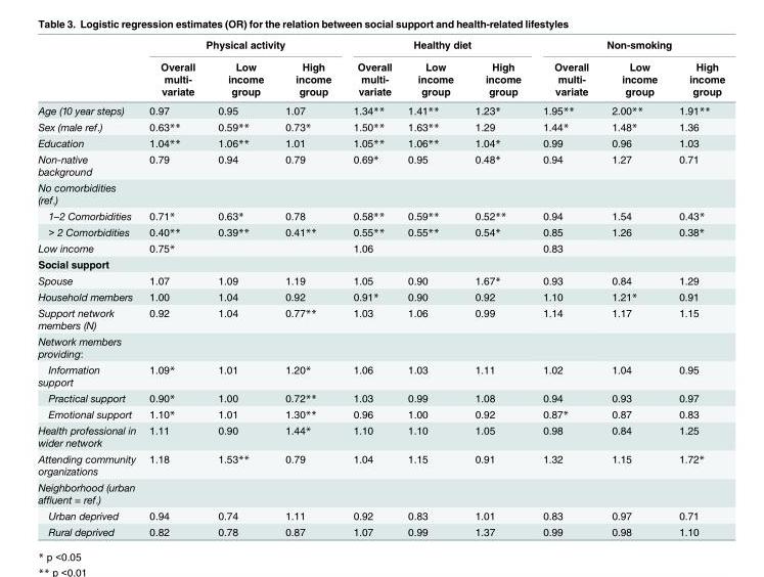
<table><thead><tr><td rowspan="2"></td><td colspan="3">Physical activity</td><td colspan="3">Healthy diet</td><td colspan="3">Non-smoking</td></tr><tr><td>Overall multi- variate</td><td>Low income group</td><td>High income group</td><td>Overall multi- variate</td><td>Low income group</td><td>High income group</td><td>Overall multi- variate</td><td>Low income group</td><td>High income group</td></tr></thead><tbody><tr><td>Age (10 year steps)</td><td>0.97</td><td>0.95</td><td>1.07</td><td>1.34**</td><td>1.41**</td><td>1.23*</td><td>1.95**</td><td>2.00**</td><td>1.91**</td></tr><tr><td>Sex (male ref.)</td><td>0.63**</td><td>0.59**</td><td>0.73*</td><td>1.50**</td><td>1.63**</td><td>1.29</td><td>1.44*</td><td>1.48*</td><td>1.36</td></tr><tr><td>Education</td><td>1.04**</td><td>1.06**</td><td>1.01</td><td>1.05**</td><td>1.06**</td><td>1.04*</td><td>0.99</td><td>0.96</td><td>1.03</td></tr><tr><td>Non-native background</td><td>0.79</td><td>0.94</td><td>0.79</td><td>0.69*</td><td>0.95</td><td>0.48*</td><td>0.94</td><td>1.27</td><td>0.71</td></tr><tr><td colspan="10">No comorbidities (ref.)</td></tr><tr><td>1–2 Comorbidities</td><td>0.71*</td><td>0.63*</td><td>0.78</td><td>0.58**</td><td>0.59**</td><td>0.52**</td><td>0.94</td><td>1.54</td><td>0.43*</td></tr><tr><td>&gt; 2 Comorbidities</td><td>0.40**</td><td>0.39**</td><td>0.41**</td><td>0.55**</td><td>0.55**</td><td>0.54*</td><td>0.85</td><td>1.26</td><td>0.38*</td></tr><tr><td>Low income</td><td>0.75*</td><td></td><td></td><td>1.06</td><td></td><td></td><td>0.83</td><td></td><td></td></tr><tr><td colspan="10">Social support</td></tr><tr><td>Spouse</td><td>1.07</td><td>1.09</td><td>1.19</td><td>1.05</td><td>0.90</td><td>1.67*</td><td>0.93</td><td>0.84</td><td>1.29</td></tr><tr><td>Household members</td><td>1.00</td><td>1.04</td><td>0.92</td><td>0.91*</td><td>0.90</td><td>0.92</td><td>1.10</td><td>1.21*</td><td>0.91</td></tr><tr><td>Support network members (N)</td><td>0.92</td><td>1.04</td><td>0.77**</td><td>1.03</td><td>1.06</td><td>0.99</td><td>1.14</td><td>1.17</td><td>1.15</td></tr><tr><td colspan="10">Network members providing:</td></tr><tr><td>Information support</td><td>1.09*</td><td>1.01</td><td>1.20*</td><td>1.06</td><td>1.03</td><td>1.11</td><td>1.02</td><td>1.04</td><td>0.95</td></tr><tr><td>Practical support</td><td>0.90*</td><td>1.00</td><td>0.72**</td><td>1.03</td><td>0.99</td><td>1.08</td><td>0.94</td><td>0.93</td><td>0.97</td></tr><tr><td>Emotional support</td><td>1.10*</td><td>1.01</td><td>1.30**</td><td>0.96</td><td>1.00</td><td>0.92</td><td>0.87*</td><td>0.87</td><td>0.83</td></tr><tr><td>Health professional in wider network</td><td>1.11</td><td>0.90</td><td>1.44*</td><td>1.10</td><td>1.10</td><td>1.05</td><td>0.98</td><td>0.84</td><td>1.25</td></tr><tr><td>Attending community organizations</td><td>1.18</td><td>1.53**</td><td>0.79</td><td>1.04</td><td>1.15</td><td>0.91</td><td>1.32</td><td>1.15</td><td>1.72*</td></tr><tr><td colspan="10">Neighborhood (urban affluent = ref.)</td></tr><tr><td>Urban deprived</td><td>0.94</td><td>0.74</td><td>1.11</td><td>0.92</td><td>0.83</td><td>1.01</td><td>0.83</td><td>0.97</td><td>0.71</td></tr><tr><td>Rural deprived</td><td>0.82</td><td>0.78</td><td>0.87</td><td>1.07</td><td>0.99</td><td>1.37</td><td>0.99</td><td>0.98</td><td>1.10</td></tr></tbody></table>